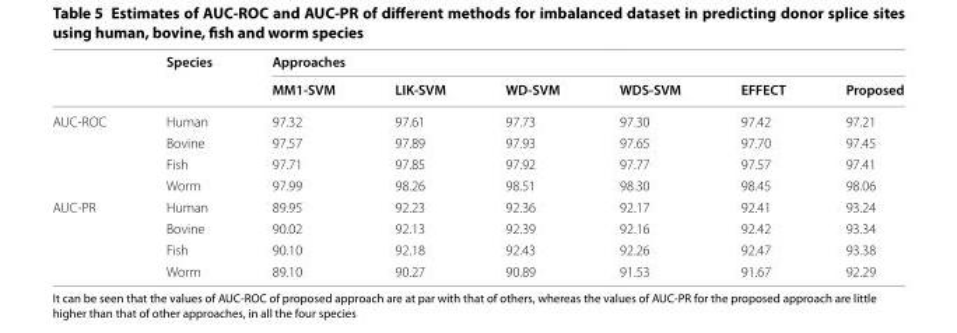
<table><thead><tr><td rowspan="2"></td><td rowspan="2">Species</td><td colspan="6">Approaches</td></tr><tr><td>MM1-SVM</td><td>LIK-SVM</td><td>WD-SVM</td><td>WDS-SVM</td><td>EFFECT</td><td>Proposed</td></tr></thead><tbody><tr><td rowspan="4">AUC-ROC</td><td>Human</td><td>97.32</td><td>97.61</td><td>97.73</td><td>97.30</td><td>97.42</td><td>97.21</td></tr><tr><td>Bovine</td><td>97.57</td><td>97.89</td><td>97.93</td><td>97.65</td><td>97.70</td><td>97.45</td></tr><tr><td>Fish</td><td>97.71</td><td>97.85</td><td>97.92</td><td>97.77</td><td>97.57</td><td>97.41</td></tr><tr><td>Worm</td><td>97.99</td><td>98.26</td><td>98.51</td><td>98.30</td><td>98.45</td><td>98.06</td></tr><tr><td rowspan="4">AUC-PR</td><td>Human</td><td>89.95</td><td>92.23</td><td>92.36</td><td>92.17</td><td>92.41</td><td>93.24</td></tr><tr><td>Bovine</td><td>90.02</td><td>92.13</td><td>92.39</td><td>92.16</td><td>92.42</td><td>93.34</td></tr><tr><td>Fish</td><td>90.10</td><td>92.18</td><td>92.43</td><td>92.26</td><td>92.47</td><td>93.38</td></tr><tr><td>Worm</td><td>89.10</td><td>90.27</td><td>90.89</td><td>91.53</td><td>91.67</td><td>92.29</td></tr></tbody></table>